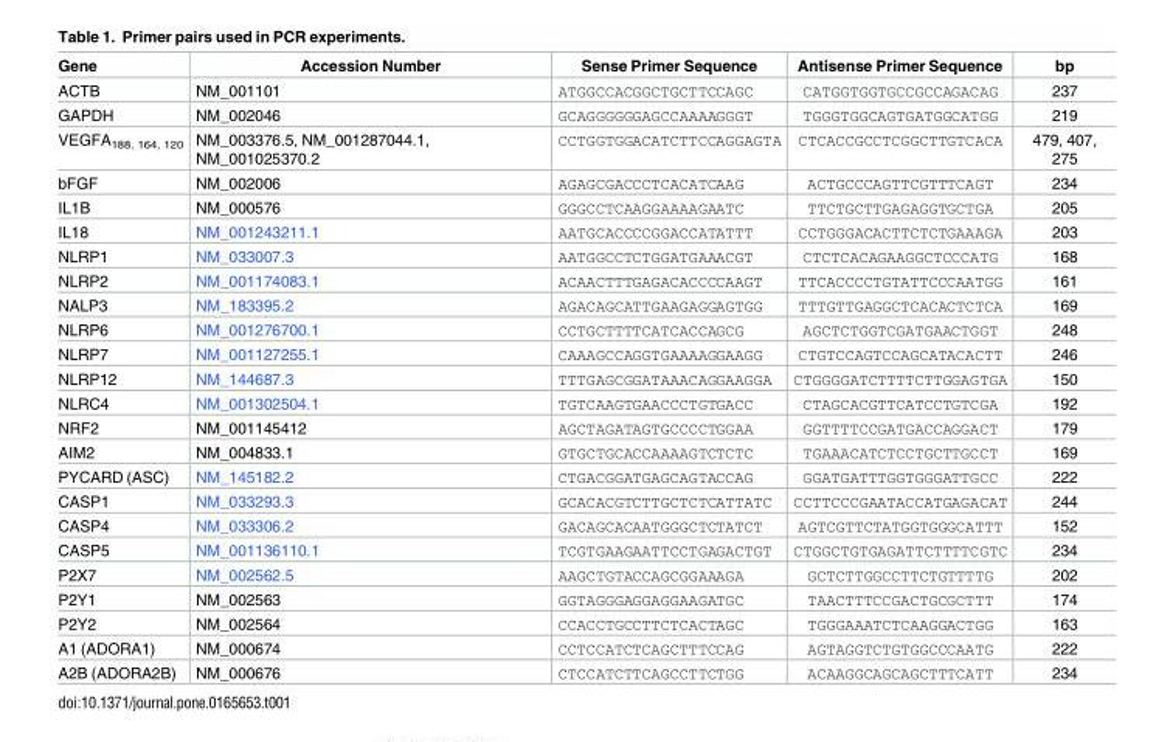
<table><thead><tr><td>Gene</td><td>Accession Number</td><td>Sense Primer Sequence</td><td>Antisense Primer Sequence</td><td>bp</td></tr></thead><tbody><tr><td>ACTB</td><td>NM_001101</td><td>ATGGCCACGGCTGCTTCCAGC</td><td>CATGGTGGTGCCGCCAGACAG</td><td>237</td></tr><tr><td>GAPDH</td><td>NM_002046</td><td>GCAGGGGGGAGCCAAAAGGGT</td><td>TGGGTGGCAGTGATGGCATGG</td><td>219</td></tr><tr><td>VEGFA<sub>188, 164, 120</sub></td><td>NM_003376.5, NM_001287044.1, NM_001025370.2</td><td>CCTGGTGGACATCTTCCAGGAGTA</td><td>CTCACCGCCTCGGCTTGTCACA</td><td>479, 407, 275</td></tr><tr><td>bFGF</td><td>NM_002006</td><td>AGAGCGACCCTCACATCAAG</td><td>ACTGCCCAGTTCGTTTCAGT</td><td>234</td></tr><tr><td>IL1B</td><td>NM_000576</td><td>GGGCCTCAAGGAAAAGAATC</td><td>TTCTGCTTGAGAGGTGCTGA</td><td>205</td></tr><tr><td>IL18</td><td>NM_001243211.1</td><td>AATGCACCCCGGACCATATTT</td><td>CCTGGGACACTTCTCTGAAAGA</td><td>203</td></tr><tr><td>NLRP1</td><td>NM_033007.3</td><td>AATGGCCTCTGGATGAAACGT</td><td>CTCTCACAGAAGGCTCCCATG</td><td>168</td></tr><tr><td>NLRP2</td><td>NM_001174083.1</td><td>ACAACTTTGAGACACCCCAAGT</td><td>TTCACCCCTGTATTCCCAATGG</td><td>161</td></tr><tr><td>NALP3</td><td>NM_183395.2</td><td>AGACAGCATTGAAGAGGAGTGG</td><td>TTTGTTGAGGCTCACACTCTCA</td><td>169</td></tr><tr><td>NLRP6</td><td>NM_001276700.1</td><td>CCTGCTTTTCATCACCAGCG</td><td>AGCTCTGGTCGATGAACTGGT</td><td>248</td></tr><tr><td>NLRP7</td><td>NM_001127255.1</td><td>CAAAGCCAGGTGAAAAGGAAGG</td><td>CTGTCCAGTCCAGCATACACTT</td><td>246</td></tr><tr><td>NLRP12</td><td>NM_144687.3</td><td>TTTGAGCGGATAAACAGGAAGGA</td><td>CTGGGGATCTTTTCTTGGAGTGA</td><td>150</td></tr><tr><td>NLRC4</td><td>NM_001302504.1</td><td>TGTCAAGTGAACCCTGTGACC</td><td>CTAGCACGTTCATCCTGTCGA</td><td>192</td></tr><tr><td>NRF2</td><td>NM_001145412</td><td>AGCTAGATAGTGCCCCTGGAA</td><td>GGTTTTCCGATGACCAGGACT</td><td>179</td></tr><tr><td>AIM2</td><td>NM_004833.1</td><td>GTGCTGCACCAAAAGTCTCTC</td><td>TGAAACATCTCCTGCTTGCCT</td><td>169</td></tr><tr><td>PYCARD (ASC)</td><td>NM_145182.2</td><td>CTGACGGATGAGCAGTACCAG</td><td>GGATGATTTGGTGGGATTGCC</td><td>222</td></tr><tr><td>CASP1</td><td>NM_033293.3</td><td>GCACACGTCTTGCTCTCATTATC</td><td>CCTTCCCGAATACCATGAGACAT</td><td>244</td></tr><tr><td>CASP4</td><td>NM_033306.2</td><td>GACAGCACAATGGGCTCTATCT</td><td>AGTCGTTCTATGGTGGGCATTT</td><td>152</td></tr><tr><td>CASP5</td><td>NM_001136110.1</td><td>TCGTGAAGAATTCCTGAGACTGT</td><td>CTGGCTGTGAGATTCTTTTCGTC</td><td>234</td></tr><tr><td>P2X7</td><td>NM_002562.5</td><td>AAGCTGTACCAGCGGAAAGA</td><td>GCTCTTGGCCTTCTGTTTTG</td><td>202</td></tr><tr><td>P2Y1</td><td>NM_002563</td><td>GGTAGGGAGGAGGAAGATGC</td><td>TAACTTTCCGACTGCGCTTT</td><td>174</td></tr><tr><td>P2Y2</td><td>NM_002564</td><td>CCACCTGCCTTCTCACTAGC</td><td>TGGGAAATCTCAAGGACTGG</td><td>163</td></tr><tr><td>A1 (ADORA1)</td><td>NM_000674</td><td>CCTCCATCTCAGCTTTCCAG</td><td>AGTAGGTCTGTGGCCCAATG</td><td>222</td></tr><tr><td>A2B (ADORA2B)</td><td>NM_000676</td><td>CTCCATCTTCAGCCTTCTGG</td><td>ACAAGGCAGCAGCTTTCATT</td><td>234</td></tr></tbody></table>